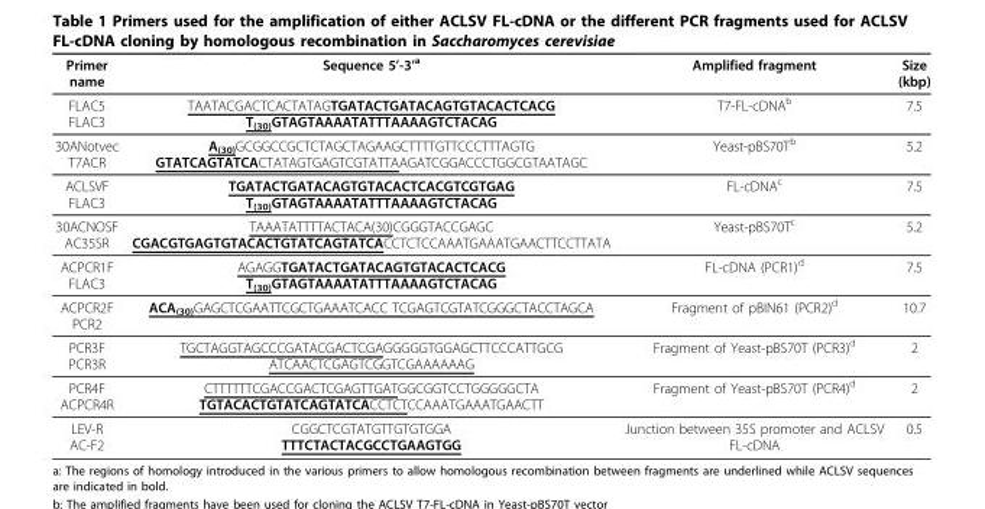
<table><thead><tr><td>Primer name</td><td>Sequence 5’-3’<sup>a</sup></td><td>Amplified fragment</td><td>Size (kbp)</td></tr></thead><tbody><tr><td>FLAC5 FLAC3</td><td>TAATACGACTCACTATAGTGATACTGATACAGTGTACACTCACG T<sub>(30)</sub>GTAGTAAAATATTTAAAAGTCTACAG</td><td>T7-FL-cDNA<sup>b</sup></td><td>7.5</td></tr><tr><td>30ANotvec T7ACR</td><td>A<sub>(30)</sub>GCGGCCGCTCTAGCTAGAAGCTTTTGTTCCCTTTAGTG GTATCAGTATCACTATAGTGAGTCGTATTAAGATCGGACCCTGGCGTAATAGC</td><td>Yeast-pBS70T<sup>b</sup></td><td>5.2</td></tr><tr><td>ACLSVF FLAC3</td><td>TGATACTGATACAGTGTACACTCACGTCGTGAG T<sub>(30)</sub>GTAGTAAAATATTTAAAAGTCTACAG</td><td>FL-cDNA<sup>c</sup></td><td>7.5</td></tr><tr><td>30ACNOSF AC35SR</td><td>TAAATATTTTACTACA(30)CGGGTACCGAGC CGACGTGAGTGTACACTGTATCAGTATCACCTCTCCAAATGAAATGAACTTCCTTATA</td><td>Yeast-pBS70T<sup>c</sup></td><td>5.2</td></tr><tr><td>ACPCR1F FLAC3</td><td>AGAGGTGATACTGATACAGTGTACACTCACG T<sub>(30)</sub>GTAGTAAAATATTTAAAAGTCTACAG</td><td>FL-cDNA (PCR1)<sup>d</sup></td><td>7.5</td></tr><tr><td>ACPCR2F PCR2</td><td>ACA<sub>(30)</sub>GAGCTCGAATTCGCTGAAATCACC TCGAGTCGTATCGGGCTACCTAGCA</td><td>Fragment of pBIN61 (PCR2)<sup>d</sup></td><td>10.7</td></tr><tr><td>PCR3F PCR3R</td><td>TGCTAGGTAGCCCGATACGACTCGAGGGGGTGGAGCTTCCCATTGCG ATCAACTCGAGTCGGTCGAAAAAAG</td><td>Fragment of Yeast-pBS70T (PCR3)<sup>d</sup></td><td>2</td></tr><tr><td>PCR4F ACPCR4R</td><td>CTTTTTTCGACCGACTCGAGTTGATGGCGGTCCTGGGGGCTA TGTACACTGTATCAGTATCACCTCTCCAAATGAAATGAACTT</td><td>Fragment of Yeast-pBS70T (PCR4)<sup>d</sup></td><td>2</td></tr><tr><td>LEV-R AC-F2</td><td>CGGCTCGTATGTTGTGTGGA TTTCTACTACGCCTGAAGTGG</td><td>Junction between 35S promoter and ACLSV FL-cDNA</td><td>0.5</td></tr></tbody></table>